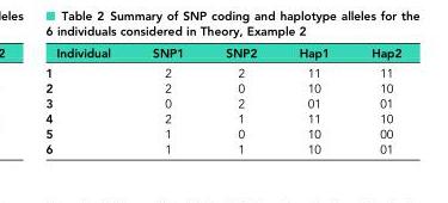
<table><thead><tr><td>Individual</td><td>SNP1</td><td>SNP2</td><td>Hap1</td><td>Hap2</td></tr></thead><tbody><tr><td>1</td><td>2</td><td>2</td><td>11</td><td>11</td></tr><tr><td>2</td><td>2</td><td>0</td><td>10</td><td>10</td></tr><tr><td>3</td><td>0</td><td>2</td><td>01</td><td>01</td></tr><tr><td>4</td><td>2</td><td>1</td><td>11</td><td>10</td></tr><tr><td>5</td><td>1</td><td>0</td><td>10</td><td>00</td></tr><tr><td>6</td><td>1</td><td>1</td><td>10</td><td>01</td></tr></tbody></table>